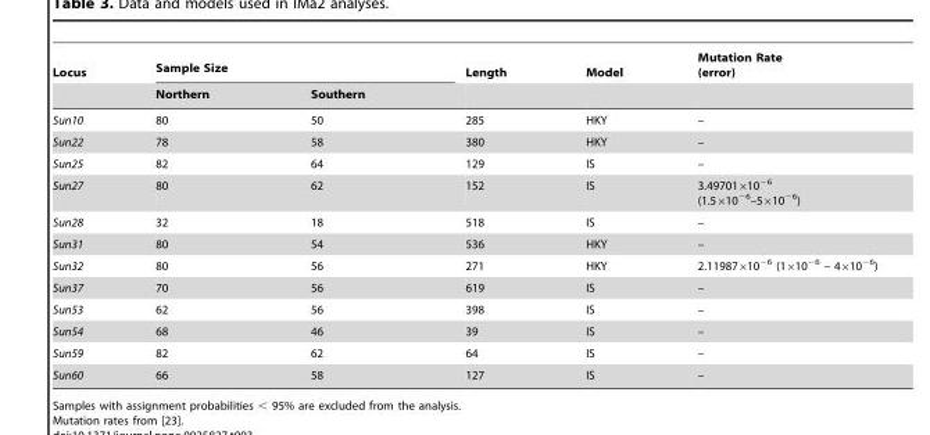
<table><thead><tr><td rowspan="2">Locus</td><td colspan="2">Sample Size</td><td rowspan="2">Length</td><td rowspan="2">Model</td><td rowspan="2">Mutation Rate (error)</td></tr><tr><td>Northern</td><td>Southern</td></tr></thead><tbody><tr><td>Sun10</td><td>80</td><td>50</td><td>285</td><td>HKY</td><td>–</td></tr><tr><td>Sun22</td><td>78</td><td>58</td><td>380</td><td>HKY</td><td>–</td></tr><tr><td>Sun25</td><td>82</td><td>64</td><td>129</td><td>IS</td><td>–</td></tr><tr><td>Sun27</td><td>80</td><td>62</td><td>152</td><td>IS</td><td>3.49701×10<sup>−6</sup> (1.5×10<sup>−6</sup>–5×10<sup>−6</sup>)</td></tr><tr><td>Sun28</td><td>32</td><td>18</td><td>518</td><td>IS</td><td>–</td></tr><tr><td>Sun31</td><td>80</td><td>54</td><td>536</td><td>HKY</td><td>–</td></tr><tr><td>Sun32</td><td>80</td><td>56</td><td>271</td><td>HKY</td><td>2.11987×10<sup>−6</sup> (1×10<sup>−6</sup> – 4×10<sup>−6</sup>)</td></tr><tr><td>Sun37</td><td>70</td><td>56</td><td>619</td><td>IS</td><td>–</td></tr><tr><td>Sun53</td><td>62</td><td>56</td><td>398</td><td>IS</td><td>–</td></tr><tr><td>Sun54</td><td>68</td><td>46</td><td>39</td><td>IS</td><td>–</td></tr><tr><td>Sun59</td><td>82</td><td>62</td><td>64</td><td>IS</td><td>–</td></tr><tr><td>Sun60</td><td>66</td><td>58</td><td>127</td><td>IS</td><td>–</td></tr></tbody></table>